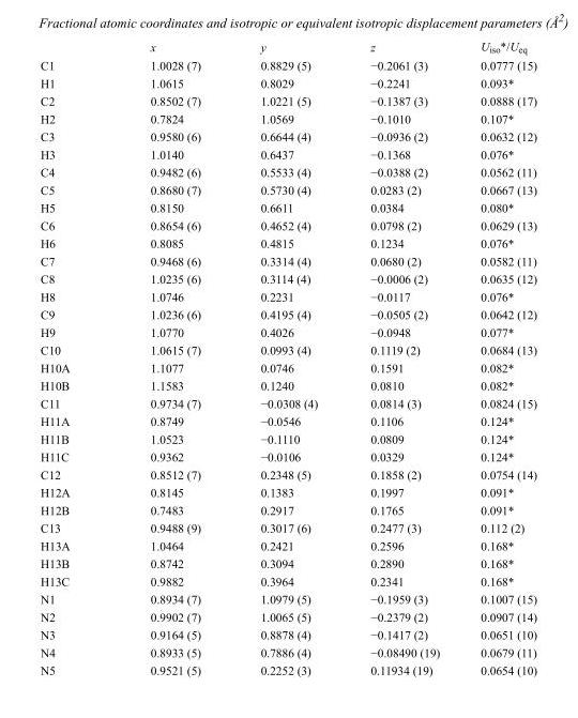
<table><thead><tr><td></td><td>x</td><td>y</td><td>z</td><td>U<sub>iso</sub>*/U<sub>eq</sub></td></tr></thead><tbody><tr><td>C1</td><td>1.0028 (7)</td><td>0.8829 (5)</td><td>−0.2061 (3)</td><td>0.0777 (15)</td></tr><tr><td>H1</td><td>1.0615</td><td>0.8029</td><td>−0.2241</td><td>0.093*</td></tr><tr><td>C2</td><td>0.8502 (7)</td><td>1.0221 (5)</td><td>−0.1387 (3)</td><td>0.0888 (17)</td></tr><tr><td>H2</td><td>0.7824</td><td>1.0569</td><td>−0.1010</td><td>0.107*</td></tr><tr><td>C3</td><td>0.9580 (6)</td><td>0.6644 (4)</td><td>−0.0936 (2)</td><td>0.0632 (12)</td></tr><tr><td>H3</td><td>1.0140</td><td>0.6437</td><td>−0.1368</td><td>0.076*</td></tr><tr><td>C4</td><td>0.9482 (6)</td><td>0.5533 (4)</td><td>−0.0388 (2)</td><td>0.0562 (11)</td></tr><tr><td>C5</td><td>0.8680 (7)</td><td>0.5730 (4)</td><td>0.0283 (2)</td><td>0.0667 (13)</td></tr><tr><td>H5</td><td>0.8150</td><td>0.6611</td><td>0.0384</td><td>0.080*</td></tr><tr><td>C6</td><td>0.8654 (6)</td><td>0.4652 (4)</td><td>0.0798 (2)</td><td>0.0629 (13)</td></tr><tr><td>H6</td><td>0.8085</td><td>0.4815</td><td>0.1234</td><td>0.076*</td></tr><tr><td>C7</td><td>0.9468 (6)</td><td>0.3314 (4)</td><td>0.0680 (2)</td><td>0.0582 (11)</td></tr><tr><td>C8</td><td>1.0235 (6)</td><td>0.3114 (4)</td><td>−0.0006 (2)</td><td>0.0635 (12)</td></tr><tr><td>H8</td><td>1.0746</td><td>0.2231</td><td>−0.0117</td><td>0.076*</td></tr><tr><td>C9</td><td>1.0236 (6)</td><td>0.4195 (4)</td><td>−0.0505 (2)</td><td>0.0642 (12)</td></tr><tr><td>H9</td><td>1.0770</td><td>0.4026</td><td>−0.0948</td><td>0.077*</td></tr><tr><td>C10</td><td>1.0615 (7)</td><td>0.0993 (4)</td><td>0.1119 (2)</td><td>0.0684 (13)</td></tr><tr><td>H10A</td><td>1.1077</td><td>0.0746</td><td>0.1591</td><td>0.082*</td></tr><tr><td>H10B</td><td>1.1583</td><td>0.1240</td><td>0.0810</td><td>0.082*</td></tr><tr><td>C11</td><td>0.9734 (7)</td><td>−0.0308 (4)</td><td>0.0814 (3)</td><td>0.0824 (15)</td></tr><tr><td>H11A</td><td>0.8749</td><td>−0.0546</td><td>0.1106</td><td>0.124*</td></tr><tr><td>H11B</td><td>1.0523</td><td>−0.1110</td><td>0.0809</td><td>0.124*</td></tr><tr><td>H11C</td><td>0.9362</td><td>−0.0106</td><td>0.0329</td><td>0.124*</td></tr><tr><td>C12</td><td>0.8512 (7)</td><td>0.2348 (5)</td><td>0.1858 (2)</td><td>0.0754 (14)</td></tr><tr><td>H12A</td><td>0.8145</td><td>0.1383</td><td>0.1997</td><td>0.091*</td></tr><tr><td>H12B</td><td>0.7483</td><td>0.2917</td><td>0.1765</td><td>0.091*</td></tr><tr><td>C13</td><td>0.9488 (9)</td><td>0.3017 (6)</td><td>0.2477 (3)</td><td>0.112 (2)</td></tr><tr><td>H13A</td><td>1.0464</td><td>0.2421</td><td>0.2596</td><td>0.168*</td></tr><tr><td>H13B</td><td>0.8742</td><td>0.3094</td><td>0.2890</td><td>0.168*</td></tr><tr><td>H13C</td><td>0.9882</td><td>0.3964</td><td>0.2341</td><td>0.168*</td></tr><tr><td>N1</td><td>0.8934 (7)</td><td>1.0979 (5)</td><td>−0.1959 (3)</td><td>0.1007 (15)</td></tr><tr><td>N2</td><td>0.9902 (7)</td><td>1.0065 (5)</td><td>−0.2379 (2)</td><td>0.0907 (14)</td></tr><tr><td>N3</td><td>0.9164 (5)</td><td>0.8878 (4)</td><td>−0.1417 (2)</td><td>0.0651 (10)</td></tr><tr><td>N4</td><td>0.8933 (5)</td><td>0.7886 (4)</td><td>−0.08490 (19)</td><td>0.0679 (11)</td></tr><tr><td>N5</td><td>0.9521 (5)</td><td>0.2252 (3)</td><td>0.11934 (19)</td><td>0.0654 (10)</td></tr></tbody></table>